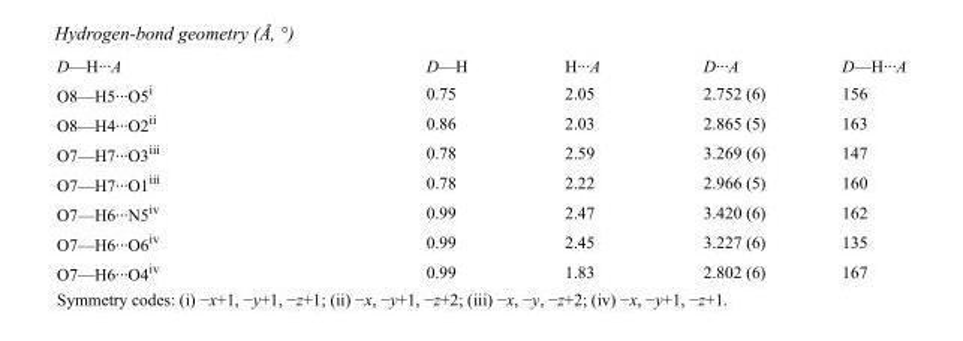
<table><tbody><tr><td>D—H···A</td><td>D—H</td><td>H···A</td><td>D···A</td><td>D—H···A</td></tr><tr><td>O8—H5···O5<sup>i</sup></td><td>0.75</td><td>2.05</td><td>2.752 (6)</td><td>156</td></tr><tr><td>O8—H4···O2<sup>ii</sup></td><td>0.86</td><td>2.03</td><td>2.865 (5)</td><td>163</td></tr><tr><td>O7—H7···O3<sup>iii</sup></td><td>0.78</td><td>2.59</td><td>3.269 (6)</td><td>147</td></tr><tr><td>O7—H7···O1<sup>iii</sup></td><td>0.78</td><td>2.22</td><td>2.966 (5)</td><td>160</td></tr><tr><td>O7—H6···N5<sup>iv</sup></td><td>0.99</td><td>2.47</td><td>3.420 (6)</td><td>162</td></tr><tr><td>O7—H6···O6<sup>iv</sup></td><td>0.99</td><td>2.45</td><td>3.227 (6)</td><td>135</td></tr><tr><td>O7—H6···O4<sup>iv</sup></td><td>0.99</td><td>1.83</td><td>2.802 (6)</td><td>167</td></tr></tbody></table>